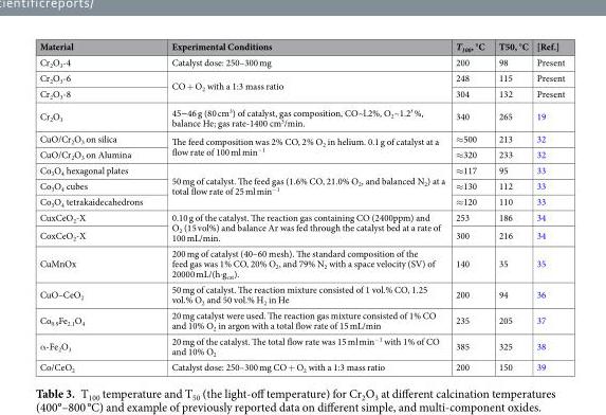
<table><thead><tr><td>Material</td><td>Experimental Conditions</td><td>T<sub>100</sub>, °C</td><td>T50, °C</td><td>[Ref.]</td></tr></thead><tbody><tr><td>Cr<sub>2</sub>O<sub>3</sub>-4</td><td>Catalyst dose: 250–300 mg</td><td>200</td><td>98</td><td>Present</td></tr><tr><td>Cr<sub>2</sub>O<sub>3</sub>-6</td><td rowspan="2">CO + O<sub>2</sub> with a 1:3 mass ratio</td><td>248</td><td>115</td><td>Present</td></tr><tr><td>Cr<sub>2</sub>O<sub>3</sub>-8</td><td>304</td><td>132</td><td>Present</td></tr><tr><td>Cr<sub>2</sub>O<sub>3</sub></td><td>45–46 g (80 cm<sup>3</sup>) of catalyst, gas composition, CO~l.2%, O<sub>2</sub>~1.2′ %, balance He; gas rate-1400 cm<sup>3</sup>/min.</td><td>340</td><td>265</td><td>19</td></tr><tr><td>CuO/Cr<sub>2</sub>O<sub>3</sub> on silica</td><td rowspan="2">The feed composition was 2% CO, 2% O<sub>2</sub> in helium. 0.1 g of catalyst at a flow rate of 100 ml min<sup>−1</sup></td><td>≈500</td><td>213</td><td>32</td></tr><tr><td>CuO/Cr<sub>2</sub>O<sub>3</sub> on Alumina</td><td>≈320</td><td>233</td><td>32</td></tr><tr><td>Co<sub>3</sub>O<sub>4</sub> hexagonal plates</td><td rowspan="3">50 mg of catalyst. The feed gas (1.6% CO, 21.0% O<sub>2</sub>, and balanced N<sub>2</sub>) at a total flow rate of 25 ml min<sup>−1</sup></td><td>≈117</td><td>95</td><td>33</td></tr><tr><td>Co<sub>3</sub>O<sub>4</sub> cubes</td><td>≈130</td><td>112</td><td>33</td></tr><tr><td>Co<sub>3</sub>O<sub>4</sub> tetrakaidecahedrons</td><td>≈120</td><td>110</td><td>33</td></tr><tr><td>CuxCeO<sub>2</sub>-X</td><td rowspan="2">0.10 g of the catalyst. The reaction gas containing CO (2400ppm) and O<sub>2</sub> (15 vol%) and balance Ar was fed through the catalyst bed at a rate of 100 mL/min.</td><td>253</td><td>186</td><td>34</td></tr><tr><td>CoxCeO<sub>2</sub>-X</td><td>300</td><td>216</td><td>34</td></tr><tr><td>CuMnOx</td><td>200 mg of catalyst (40–60 mesh). The standard composition of the feed gas was 1% CO, 20% O<sub>2</sub>, and 79% N<sub>2</sub> with a space velocity (SV) of 20000 mL/(h·g<sub>cat</sub>).</td><td>140</td><td>35</td><td>35</td></tr><tr><td>CuO–CeO<sub>2</sub></td><td>50 mg of catalyst. The reaction mixture consisted of 1 vol.% CO, 1.25 vol.% O<sub>2</sub> and 50 vol.% H<sub>2</sub> in He</td><td>200</td><td>94</td><td>36</td></tr><tr><td>Co<sub>0.9</sub>Fe<sub>2.1</sub>O<sub>4</sub></td><td>20 mg catalyst were used. The reaction gas mixture consisted of 1% CO and 10% O<sub>2</sub> in argon with a total flow rate of 15 mL/min</td><td>235</td><td>205</td><td>37</td></tr><tr><td>α-Fe<sub>2</sub>O<sub>3</sub></td><td>20 mg of the catalyst. The total flow rate was 15 ml min<sup>−1</sup> with 1% of CO and 10% O<sub>2</sub></td><td>385</td><td>325</td><td>38</td></tr><tr><td>Co/CeO<sub>2</sub></td><td>Catalyst dose: 250–300 mg CO + O<sub>2</sub> with a 1:3 mass ratio</td><td>200</td><td>150</td><td>39</td></tr></tbody></table>